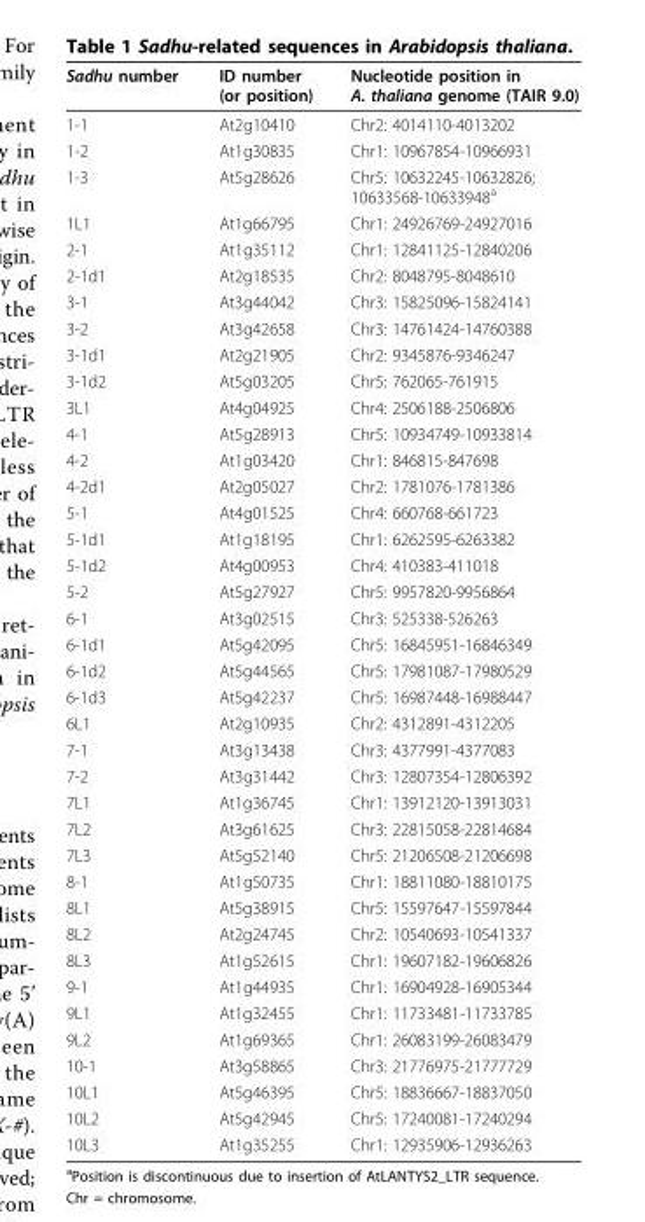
<table><thead><tr><td>Sadhu number</td><td>ID number (or position)</td><td>Nucleotide position in A. thaliana genome (TAIR 9.0)</td></tr></thead><tbody><tr><td>1-1</td><td>At2g10410</td><td>Chr2: 4014110-4013202</td></tr><tr><td>1-2</td><td>At1g30835</td><td>Chr1: 10967854-10966931</td></tr><tr><td>1-3</td><td>At5g28626</td><td>Chr5: 10632245-10632826; 10633568-10633948<sup>a</sup></td></tr><tr><td>1L1</td><td>At1g66795</td><td>Chr1: 24926769-24927016</td></tr><tr><td>2-1</td><td>At1g35112</td><td>Chr1: 12841125-12840206</td></tr><tr><td>2-1d1</td><td>At2g18535</td><td>Chr2: 8048795-8048610</td></tr><tr><td>3-1</td><td>At3g44042</td><td>Chr3: 15825096-15824141</td></tr><tr><td>3-2</td><td>At3g42658</td><td>Chr3: 14761424-14760388</td></tr><tr><td>3-1d1</td><td>At2g21905</td><td>Chr2: 9345876-9346247</td></tr><tr><td>3-1d2</td><td>At5g03205</td><td>Chr5: 762065-761915</td></tr><tr><td>3L1</td><td>At4g04925</td><td>Chr4: 2506188-2506806</td></tr><tr><td>4-1</td><td>At5g28913</td><td>Chr5: 10934749-10933814</td></tr><tr><td>4-2</td><td>At1g03420</td><td>Chr1: 846815-847698</td></tr><tr><td>4-2d1</td><td>At2g05027</td><td>Chr2: 1781076-1781386</td></tr><tr><td>5-1</td><td>At4g01525</td><td>Chr4: 660768-661723</td></tr><tr><td>5-1d1</td><td>At1g18195</td><td>Chr1: 6262595-6263382</td></tr><tr><td>5-1d2</td><td>At4g00953</td><td>Chr4: 410383-411018</td></tr><tr><td>5-2</td><td>At5g27927</td><td>Chr5: 9957820-9956864</td></tr><tr><td>6-1</td><td>At3g02515</td><td>Chr3: 525338-526263</td></tr><tr><td>6-1d1</td><td>At5g42095</td><td>Chr5: 16845951-16846349</td></tr><tr><td>6-1d2</td><td>At5g44565</td><td>Chr5: 17981087-17980529</td></tr><tr><td>6-1d3</td><td>At5g42237</td><td>Chr5: 16987448-16988447</td></tr><tr><td>6L1</td><td>At2g10935</td><td>Chr2: 4312891-4312205</td></tr><tr><td>7-1</td><td>At3g13438</td><td>Chr3: 4377991-4377083</td></tr><tr><td>7-2</td><td>At3g31442</td><td>Chr3: 12807354-12806392</td></tr><tr><td>7L1</td><td>At1g36745</td><td>Chr1: 13912120-13913031</td></tr><tr><td>7L2</td><td>At3g61625</td><td>Chr3: 22815058-22814684</td></tr><tr><td>7L3</td><td>At5g52140</td><td>Chr5: 21206508-21206698</td></tr><tr><td>8-1</td><td>At1g50735</td><td>Chr1: 18811080-18810175</td></tr><tr><td>8L1</td><td>At5g38915</td><td>Chr5: 15597647-15597844</td></tr><tr><td>8L2</td><td>At2g24745</td><td>Chr2: 10540693-10541337</td></tr><tr><td>8L3</td><td>At1g52615</td><td>Chr1: 19607182-19606826</td></tr><tr><td>9-1</td><td>At1g44935</td><td>Chr1: 16904928-16905344</td></tr><tr><td>9L1</td><td>At1g32455</td><td>Chr1: 11733481-11733785</td></tr><tr><td>9L2</td><td>At1g69365</td><td>Chr1: 26083199-26083479</td></tr><tr><td>10-1</td><td>At3g58865</td><td>Chr3: 21776975-21777729</td></tr><tr><td>10L1</td><td>At5g46395</td><td>Chr5: 18836667-18837050</td></tr><tr><td>10L2</td><td>At5g42945</td><td>Chr5: 17240081-17240294</td></tr><tr><td>10L3</td><td>At1g35255</td><td>Chr1: 12935906-12936263</td></tr></tbody></table>